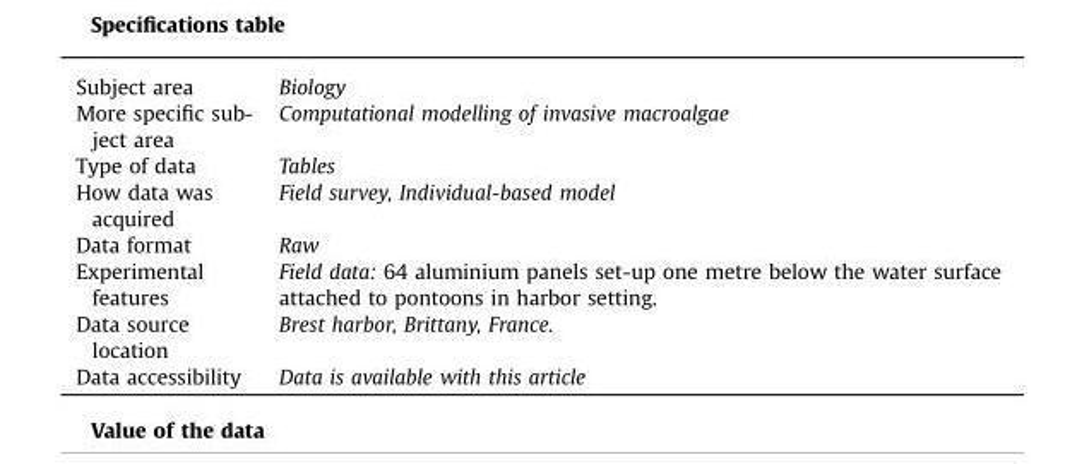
<table><thead><tr><td>Subject area</td><td>Biology</td></tr></thead><tbody><tr><td>More specific sub- ject area</td><td>Computational modelling of invasive macroalgae</td></tr><tr><td>Type of data</td><td>Tables</td></tr><tr><td>How data was acquired</td><td>Field survey, Individual-based model</td></tr><tr><td>Data format</td><td>Raw</td></tr><tr><td>Experimental features</td><td>Field data: 64 aluminium panels set-up one metre below the water surface attached to pontoons in harbor setting.</td></tr><tr><td>Data source location</td><td>Brest harbor, Brittany, France.</td></tr><tr><td>Data accessibility</td><td>Data is available with this article</td></tr></tbody></table>